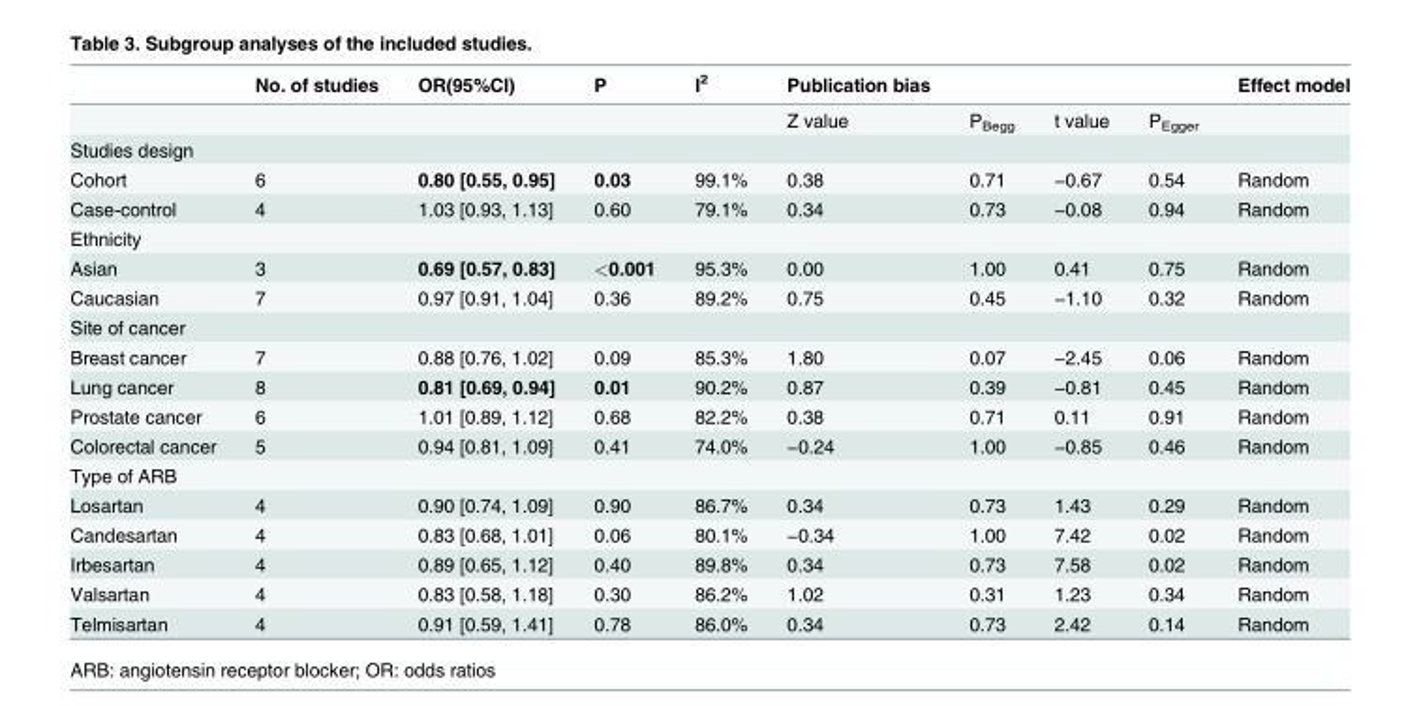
<table><thead><tr><td></td><td>No. of studies</td><td>OR(95%CI)</td><td>P</td><td>I<sup>2</sup></td><td>Publication bias</td><td></td><td></td><td></td><td>Effect model</td></tr></thead><tbody><tr><td></td><td></td><td></td><td></td><td></td><td>Z value</td><td>P<sub>Begg</sub></td><td>t value</td><td>P<sub>Egger</sub></td><td></td></tr><tr><td colspan="10">Studies design</td></tr><tr><td>Cohort</td><td>6</td><td>0.80 [0.55, 0.95]</td><td>0.03</td><td>99.1%</td><td>0.38</td><td>0.71</td><td>−0.67</td><td>0.54</td><td>Random</td></tr><tr><td>Case-control</td><td>4</td><td>1.03 [0.93, 1.13]</td><td>0.60</td><td>79.1%</td><td>0.34</td><td>0.73</td><td>−0.08</td><td>0.94</td><td>Random</td></tr><tr><td colspan="10">Ethnicity</td></tr><tr><td>Asian</td><td>3</td><td>0.69 [0.57, 0.83]</td><td>&lt;0.001</td><td>95.3%</td><td>0.00</td><td>1.00</td><td>0.41</td><td>0.75</td><td>Random</td></tr><tr><td>Caucasian</td><td>7</td><td>0.97 [0.91, 1.04]</td><td>0.36</td><td>89.2%</td><td>0.75</td><td>0.45</td><td>−1.10</td><td>0.32</td><td>Random</td></tr><tr><td colspan="10">Site of cancer</td></tr><tr><td>Breast cancer</td><td>7</td><td>0.88 [0.76, 1.02]</td><td>0.09</td><td>85.3%</td><td>1.80</td><td>0.07</td><td>−2.45</td><td>0.06</td><td>Random</td></tr><tr><td>Lung cancer</td><td>8</td><td>0.81 [0.69, 0.94]</td><td>0.01</td><td>90.2%</td><td>0.87</td><td>0.39</td><td>−0.81</td><td>0.45</td><td>Random</td></tr><tr><td>Prostate cancer</td><td>6</td><td>1.01 [0.89, 1.12]</td><td>0.68</td><td>82.2%</td><td>0.38</td><td>0.71</td><td>0.11</td><td>0.91</td><td>Random</td></tr><tr><td>Colorectal cancer</td><td>5</td><td>0.94 [0.81, 1.09]</td><td>0.41</td><td>74.0%</td><td>−0.24</td><td>1.00</td><td>−0.85</td><td>0.46</td><td>Random</td></tr><tr><td colspan="10">Type of ARB</td></tr><tr><td>Losartan</td><td>4</td><td>0.90 [0.74, 1.09]</td><td>0.90</td><td>86.7%</td><td>0.34</td><td>0.73</td><td>1.43</td><td>0.29</td><td>Random</td></tr><tr><td>Candesartan</td><td>4</td><td>0.83 [0.68, 1.01]</td><td>0.06</td><td>80.1%</td><td>−0.34</td><td>1.00</td><td>7.42</td><td>0.02</td><td>Random</td></tr><tr><td>Irbesartan</td><td>4</td><td>0.89 [0.65, 1.12]</td><td>0.40</td><td>89.8%</td><td>0.34</td><td>0.73</td><td>7.58</td><td>0.02</td><td>Random</td></tr><tr><td>Valsartan</td><td>4</td><td>0.83 [0.58, 1.18]</td><td>0.30</td><td>86.2%</td><td>1.02</td><td>0.31</td><td>1.23</td><td>0.34</td><td>Random</td></tr><tr><td>Telmisartan</td><td>4</td><td>0.91 [0.59, 1.41]</td><td>0.78</td><td>86.0%</td><td>0.34</td><td>0.73</td><td>2.42</td><td>0.14</td><td>Random</td></tr></tbody></table>